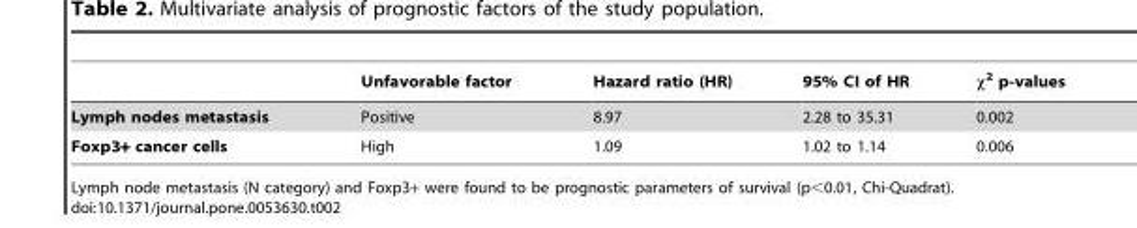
<table><thead><tr><td></td><td>Unfavorable factor</td><td>Hazard ratio (HR)</td><td>95% CI of HR</td><td>x2 p-values</td></tr></thead><tbody><tr><td>Lymph nodes metastasis</td><td>Positive</td><td>8.97</td><td>2.28 to 35.31</td><td>0.002</td></tr><tr><td>Foxp3+ cancer cells</td><td>High</td><td>1.09</td><td>1.02 to 1.14</td><td>0.006</td></tr></tbody></table>